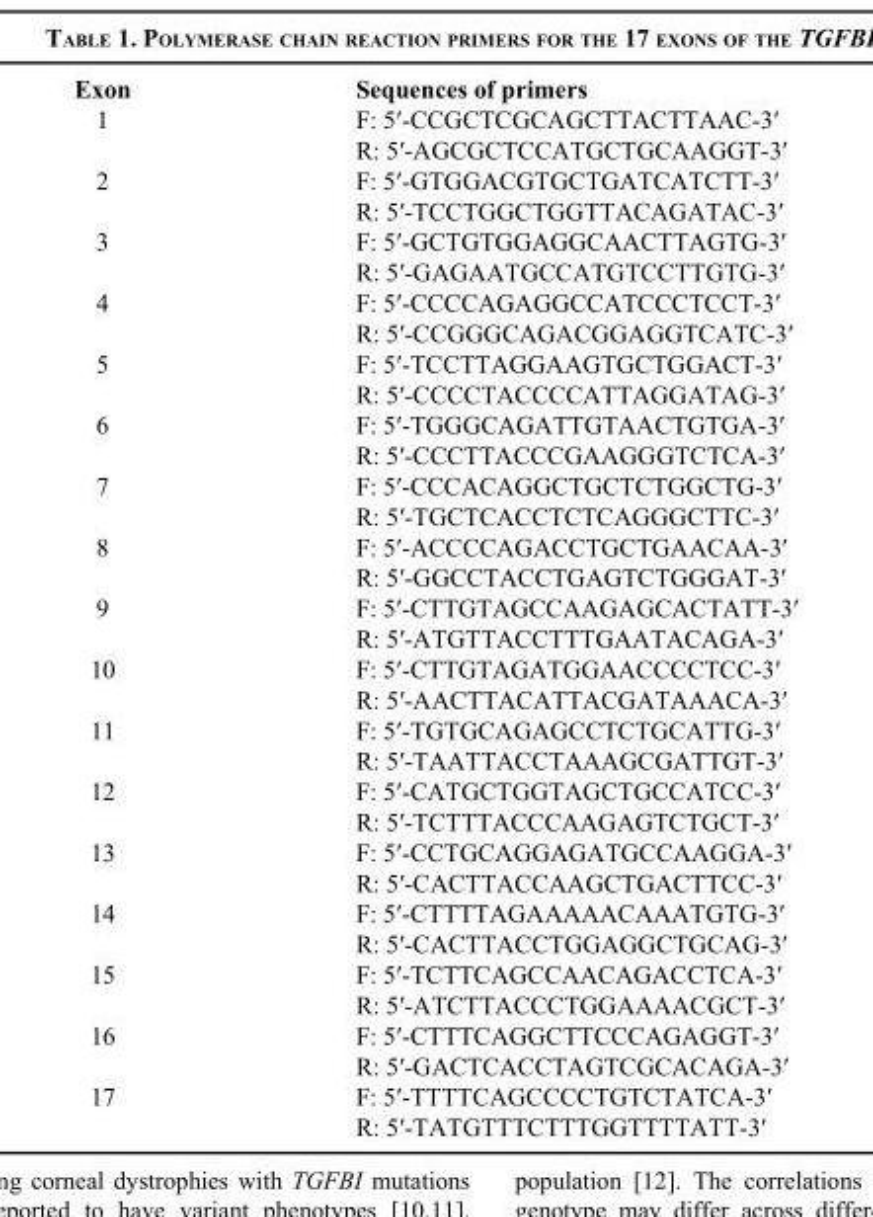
<table><thead><tr><td>Exon</td><td>Sequences of primers</td></tr></thead><tbody><tr><td rowspan="2">1</td><td>F: 5′-CCGCTCGCAGCTTACTTAAC-3′</td></tr><tr><td>R: 5′-AGCGCTCCATGCTGCAAGGT-3′</td></tr><tr><td rowspan="2">2</td><td>F: 5′-GTGGACGTGCTGATCATCTT-3′</td></tr><tr><td>R: 5′-TCCTGGCTGGTTACAGATAC-3′</td></tr><tr><td rowspan="2">3</td><td>F: 5′-GCTGTGGAGGCAACTTAGTG-3′</td></tr><tr><td>R: 5′-GAGAATGCCATGTCCTTGTG-3′</td></tr><tr><td rowspan="2">4</td><td>F: 5′-CCCCAGAGGCCATCCCTCCT-3′</td></tr><tr><td>R: 5′-CCGGGCAGACGGAGGTCATC-3′</td></tr><tr><td rowspan="2">5</td><td>F: 5′-TCCTTAGGAAGTGCTGGACT-3′</td></tr><tr><td>R: 5′-CCCCTACCCCATTAGGATAG-3′</td></tr><tr><td rowspan="2">6</td><td>F: 5′-TGGGCAGATTGTAACTGTGA-3′</td></tr><tr><td>R: 5′-CCCTTACCCGAAGGGTCTCA-3′</td></tr><tr><td rowspan="2">7</td><td>F: 5′-CCCACAGGCTGCTCTGGCTG-3′</td></tr><tr><td>R: 5′-TGCTCACCTCTCAGGGCTTC-3′</td></tr><tr><td rowspan="2">8</td><td>F: 5′-ACCCCAGACCTGCTGAACAA-3′</td></tr><tr><td>R: 5′-GGCCTACCTGAGTCTGGGAT-3′</td></tr><tr><td rowspan="2">9</td><td>F: 5′-CTTGTAGCCAAGAGCACTATT-3′</td></tr><tr><td>R: 5′-ATGTTACCTTTGAATACAGA-3′</td></tr><tr><td rowspan="2">10</td><td>F: 5′-CTTGTAGATGGAACCCCTCC-3′</td></tr><tr><td>R: 5′-AACTTACATTACGATAAACA-3′</td></tr><tr><td rowspan="2">11</td><td>F: 5′-TGTGCAGAGCCTCTGCATTG-3′</td></tr><tr><td>R: 5′-TAATTACCTAAAGCGATTGT-3′</td></tr><tr><td rowspan="2">12</td><td>F: 5′-CATGCTGGTAGCTGCCATCC-3′</td></tr><tr><td>R: 5′-TCTTTACCCAAGAGTCTGCT-3′</td></tr><tr><td rowspan="2">13</td><td>F: 5′-CCTGCAGGAGATGCCAAGGA-3′</td></tr><tr><td>R: 5′-CACTTACCAAGCTGACTTCC-3′</td></tr><tr><td rowspan="2">14</td><td>F: 5′-CTTTTAGAAAAACAAATGTG-3′</td></tr><tr><td>R: 5′-CACTTACCTGGAGGCTGCAG-3′</td></tr><tr><td rowspan="2">15</td><td>F: 5′-TCTTCAGCCAACAGACCTCA-3′</td></tr><tr><td>R: 5′-ATCTTACCCTGGAAAACGCT-3′</td></tr><tr><td rowspan="2">16</td><td>F: 5′-CTTTCAGGCTTCCCAGAGGT-3′</td></tr><tr><td>R: 5′-GACTCACCTAGTCGCACAGA-3′</td></tr><tr><td rowspan="2">17</td><td>F: 5′-TTTTCAGCCCCTGTCTATCA-3′</td></tr><tr><td>R: 5′-TATGTTTCTTTGGTTTTATT-3′</td></tr></tbody></table>